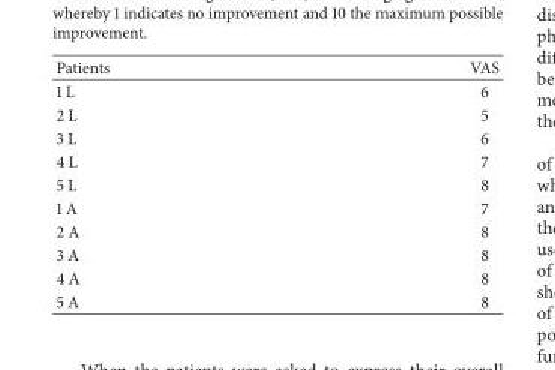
<table><thead><tr><td>Patients</td><td>VAS</td></tr></thead><tbody><tr><td>1 L</td><td>6</td></tr><tr><td>2 L</td><td>5</td></tr><tr><td>3 L</td><td>6</td></tr><tr><td>4 L</td><td>7</td></tr><tr><td>5 L</td><td>8</td></tr><tr><td>1 A</td><td>7</td></tr><tr><td>2 A</td><td>8</td></tr><tr><td>3 A</td><td>8</td></tr><tr><td>4 A</td><td>8</td></tr><tr><td>5 A</td><td>8</td></tr></tbody></table>